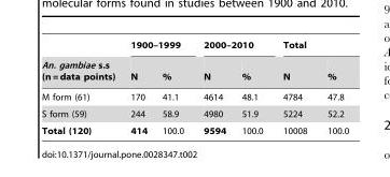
<table><thead><tr><td rowspan="2">An. gambiae s.s (n = data points)</td><td colspan="2">1900–1999</td><td colspan="2">2000–2010</td><td colspan="2">Total</td></tr><tr><td>N</td><td>%</td><td>N</td><td>%</td><td>N</td><td>%</td></tr></thead><tbody><tr><td>M form (61)</td><td>170</td><td>41.1</td><td>4614</td><td>48.1</td><td>4784</td><td>47.8</td></tr><tr><td>S form (59)</td><td>244</td><td>58.9</td><td>4980</td><td>51.9</td><td>5224</td><td>52.2</td></tr><tr><td>Total (120)</td><td>414</td><td>100.0</td><td>9594</td><td>100.0</td><td>10008</td><td>100.0</td></tr></tbody></table>